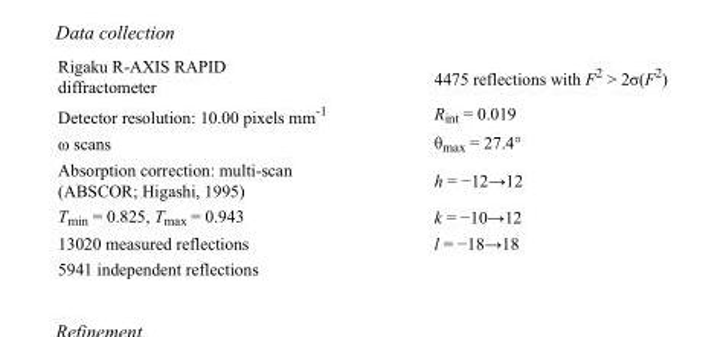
<table><tbody><tr><td>Rigaku R-AXIS RAPID diffractometer</td><td>4475 reflections with F<sup>2</sup> &gt; 2σ(F<sup>2</sup>)</td></tr><tr><td>Detector resolution: 10.00 pixels mm<sup>-1</sup></td><td>R<sub>int</sub> = 0.019</td></tr><tr><td>ω scans</td><td>θ<sub>max</sub> = 27.4°</td></tr><tr><td>Absorption correction: multi-scan (ABSCOR; Higashi, 1995)</td><td>h = −12→12</td></tr><tr><td>T<sub>min</sub> = 0.825, T<sub>max</sub> = 0.943</td><td>k = −10→12</td></tr><tr><td>13020 measured reflections</td><td>l = −18→18</td></tr><tr><td>5941 independent reflections</td><td></td></tr></tbody></table>